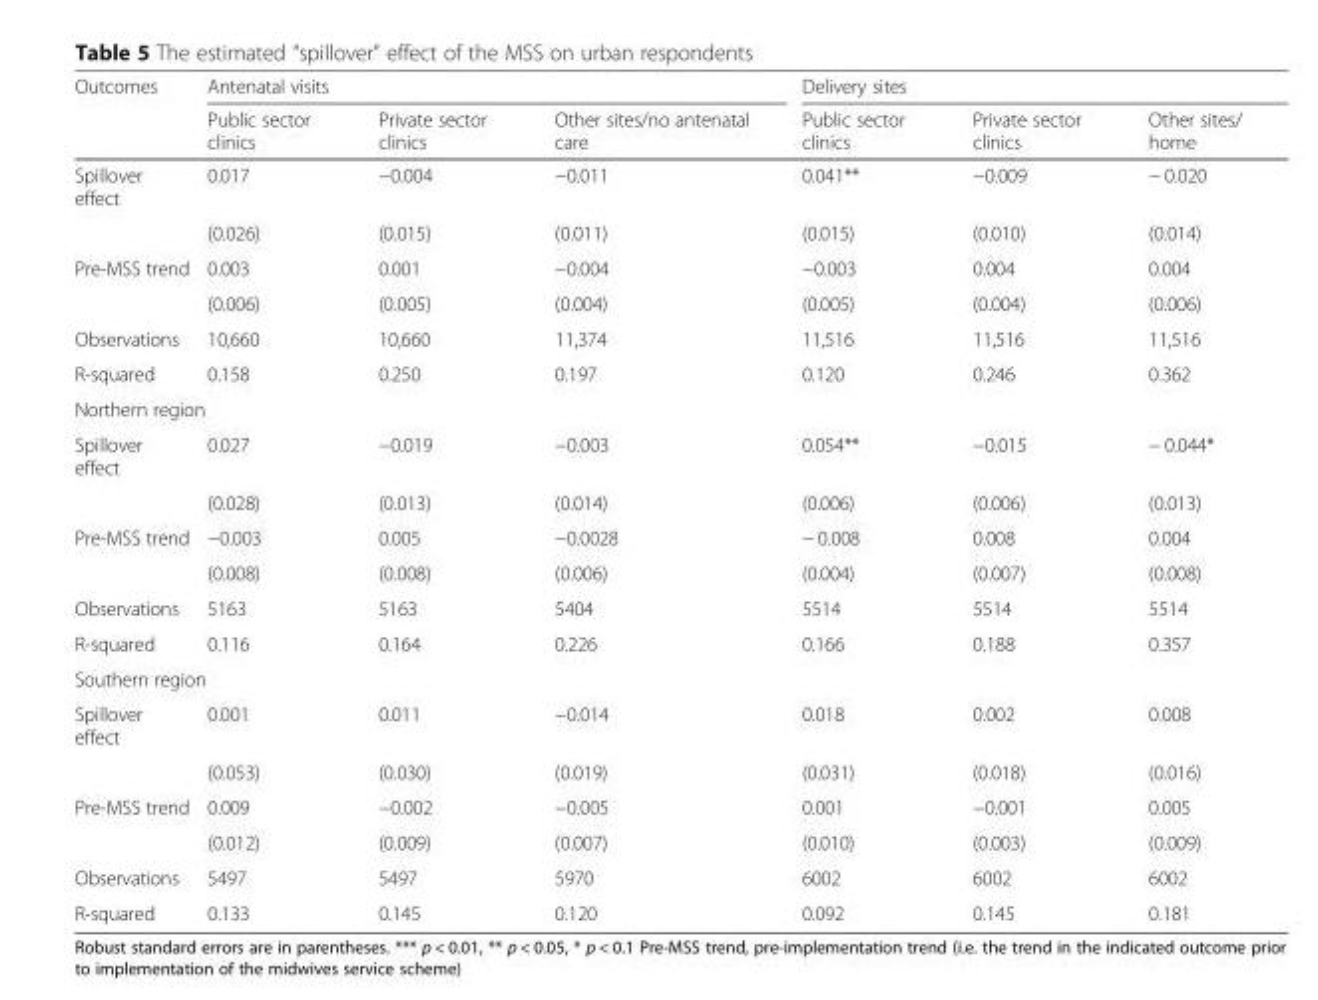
<table><thead><tr><td rowspan="2">Outcomes</td><td colspan="3">Antenatal visits</td><td colspan="3">Delivery sites</td></tr><tr><td>Public sector clinics</td><td>Private sector clinics</td><td>Other sites/no antenatal care</td><td>Public sector clinics</td><td>Private sector clinics</td><td>Other sites/ home</td></tr></thead><tbody><tr><td rowspan="2">Spillover effect</td><td>0.017</td><td>−0.004</td><td>−0.011</td><td>0.041**</td><td>−0.009</td><td>− 0.020</td></tr><tr><td>(0.026)</td><td>(0.015)</td><td>(0.011)</td><td>(0.015)</td><td>(0.010)</td><td>(0.014)</td></tr><tr><td rowspan="2">Pre-MSS trend</td><td>0.003</td><td>0.001</td><td>−0.004</td><td>−0.003</td><td>0.004</td><td>0.004</td></tr><tr><td>(0.006)</td><td>(0.005)</td><td>(0.004)</td><td>(0.005)</td><td>(0.004)</td><td>(0.006)</td></tr><tr><td>Observations</td><td>10,660</td><td>10,660</td><td>11,374</td><td>11,516</td><td>11,516</td><td>11,516</td></tr><tr><td>R-squared</td><td>0.158</td><td>0.250</td><td>0.197</td><td>0.120</td><td>0.246</td><td>0.362</td></tr><tr><td colspan="7">Northern region</td></tr><tr><td rowspan="2">Spillover effect</td><td>0.027</td><td>−0.019</td><td>−0.003</td><td>0.054**</td><td>−0.015</td><td>− 0.044*</td></tr><tr><td>(0.028)</td><td>(0.013)</td><td>(0.014)</td><td>(0.006)</td><td>(0.006)</td><td>(0.013)</td></tr><tr><td rowspan="2">Pre-MSS trend</td><td>−0.003</td><td>0.005</td><td>−0.0028</td><td>− 0.008</td><td>0.008</td><td>0.004</td></tr><tr><td>(0.008)</td><td>(0.008)</td><td>(0.006)</td><td>(0.004)</td><td>(0.007)</td><td>(0.008)</td></tr><tr><td>Observations</td><td>5163</td><td>5163</td><td>5404</td><td>5514</td><td>5514</td><td>5514</td></tr><tr><td>R-squared</td><td>0.116</td><td>0.164</td><td>0.226</td><td>0.166</td><td>0.188</td><td>0.357</td></tr><tr><td colspan="7">Southern region</td></tr><tr><td rowspan="2">Spillover effect</td><td>0.001</td><td>0.011</td><td>−0.014</td><td>0.018</td><td>0.002</td><td>0.008</td></tr><tr><td>(0.053)</td><td>(0.030)</td><td>(0.019)</td><td>(0.031)</td><td>(0.018)</td><td>(0.016)</td></tr><tr><td rowspan="2">Pre-MSS trend</td><td>0.009</td><td>−0.002</td><td>−0.005</td><td>0.001</td><td>−0.001</td><td>0.005</td></tr><tr><td>(0.012)</td><td>(0.009)</td><td>(0.007)</td><td>(0.010)</td><td>(0.003)</td><td>(0.009)</td></tr><tr><td>Observations</td><td>5497</td><td>5497</td><td>5970</td><td>6002</td><td>6002</td><td>6002</td></tr><tr><td>R-squared</td><td>0.133</td><td>0.145</td><td>0.120</td><td>0.092</td><td>0.145</td><td>0.181</td></tr></tbody></table>